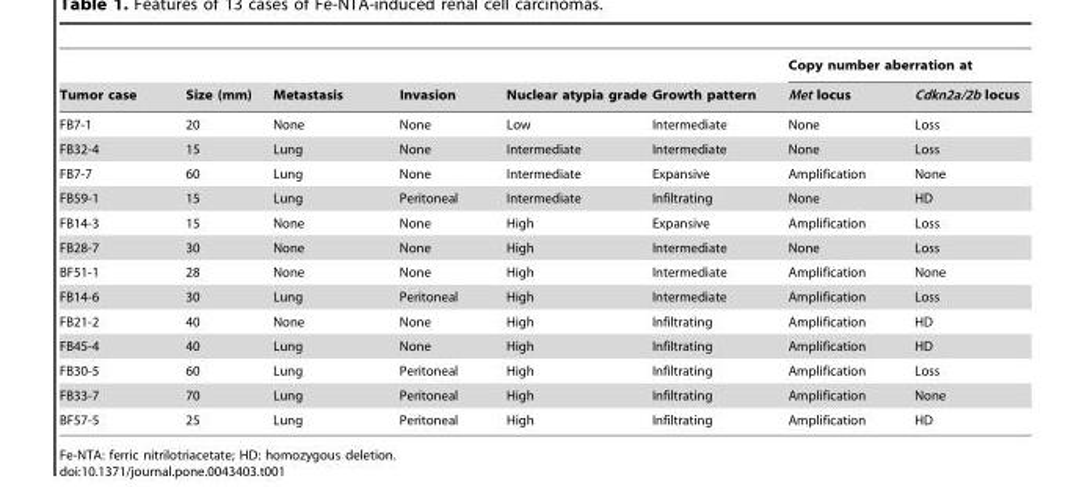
<table><thead><tr><td rowspan="2">Tumor case</td><td rowspan="2">Size (mm)</td><td rowspan="2">Metastasis</td><td rowspan="2">Invasion</td><td rowspan="2">Nuclear atypia grade</td><td rowspan="2">Growth pattern</td><td colspan="2">Copy number aberration at</td></tr><tr><td>Met locus</td><td>Cdkn2a/2b locus</td></tr></thead><tbody><tr><td>FB7-1</td><td>20</td><td>None</td><td>None</td><td>Low</td><td>Intermediate</td><td>None</td><td>Loss</td></tr><tr><td>FB32-4</td><td>15</td><td>Lung</td><td>None</td><td>Intermediate</td><td>Intermediate</td><td>None</td><td>Loss</td></tr><tr><td>FB7-7</td><td>60</td><td>Lung</td><td>None</td><td>Intermediate</td><td>Expansive</td><td>Amplification</td><td>None</td></tr><tr><td>FB59-1</td><td>15</td><td>Lung</td><td>Peritoneal</td><td>Intermediate</td><td>Infiltrating</td><td>None</td><td>HD</td></tr><tr><td>FB14-3</td><td>15</td><td>None</td><td>None</td><td>High</td><td>Expansive</td><td>Amplification</td><td>Loss</td></tr><tr><td>FB28-7</td><td>30</td><td>None</td><td>None</td><td>High</td><td>Intermediate</td><td>None</td><td>Loss</td></tr><tr><td>BF51-1</td><td>28</td><td>None</td><td>None</td><td>High</td><td>Intermediate</td><td>Amplification</td><td>None</td></tr><tr><td>FB14-6</td><td>30</td><td>Lung</td><td>Peritoneal</td><td>High</td><td>Intermediate</td><td>Amplification</td><td>Loss</td></tr><tr><td>FB21-2</td><td>40</td><td>None</td><td>None</td><td>High</td><td>Infiltrating</td><td>Amplification</td><td>HD</td></tr><tr><td>FB45-4</td><td>40</td><td>Lung</td><td>None</td><td>High</td><td>Infiltrating</td><td>Amplification</td><td>HD</td></tr><tr><td>FB30-5</td><td>60</td><td>Lung</td><td>Peritoneal</td><td>High</td><td>Infiltrating</td><td>Amplification</td><td>Loss</td></tr><tr><td>FB33-7</td><td>70</td><td>Lung</td><td>Peritoneal</td><td>High</td><td>Infiltrating</td><td>Amplification</td><td>None</td></tr><tr><td>BF57-5</td><td>25</td><td>Lung</td><td>Peritoneal</td><td>High</td><td>Infiltrating</td><td>Amplification</td><td>HD</td></tr></tbody></table>